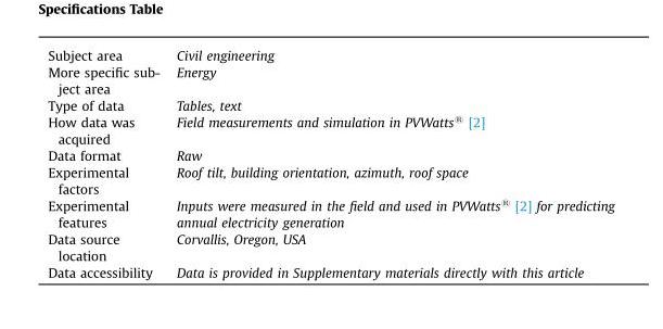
<table><tbody><tr><td>Subject area</td><td>Civil engineering</td></tr><tr><td>More specific sub- ject area</td><td>Energy</td></tr><tr><td>Type of data</td><td>Tables, text</td></tr><tr><td>How data was acquired</td><td>Field measurements and simulation in PVWatts® [2]</td></tr><tr><td>Data format</td><td>Raw</td></tr><tr><td>Experimental factors</td><td>Roof tilt, building orientation, azimuth, roof space</td></tr><tr><td>Experimental features</td><td>Inputs were measured in the field and used in PVWatts® [2] for predicting annual electricity generation</td></tr><tr><td>Data source location</td><td>Corvallis, Oregon, USA</td></tr><tr><td>Data accessibility</td><td>Data is provided in Supplementary materials directly with this article</td></tr></tbody></table>